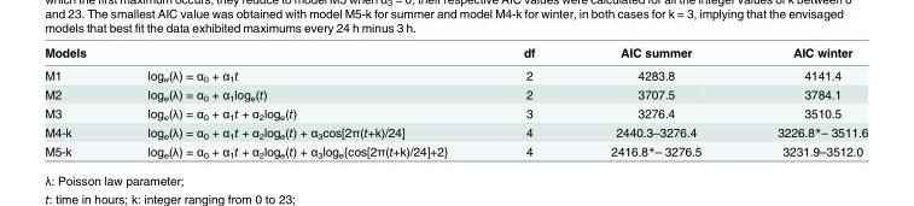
<table><thead><tr><td colspan="2">Models</td><td rowspan="2">df 2</td><td rowspan="2">AIC summer 4283.8</td><td rowspan="2">AIC winter 4141.4</td></tr><tr><td>M1</td><td>log<sub>e</sub>(λ) = α<sub>0</sub> + α<sub>1</sub>t</td></tr></thead><tbody><tr><td>M2</td><td>log<sub>e</sub>(λ) = α<sub>0</sub> + α<sub>1</sub>log<sub>e</sub>(t)</td><td>2</td><td>3707.5</td><td>3784.1</td></tr><tr><td>M3</td><td>log<sub>e</sub>(λ) = α<sub>0</sub> + α<sub>1</sub>t + α<sub>2</sub>log<sub>e</sub>(t)</td><td>3</td><td>3276.4</td><td>3510.5</td></tr><tr><td>M4-k</td><td>log<sub>e</sub>(λ) = α<sub>0</sub> + α<sub>1</sub>t + α<sub>2</sub>log<sub>e</sub>(t) + α<sub>3</sub>cos[2π(t+k)/24]</td><td>4</td><td>2440.3–3276.4</td><td>3226.8*– 3511.6</td></tr><tr><td>M5-k</td><td>log<sub>e</sub>(λ) = α<sub>0</sub> + α<sub>1</sub>t + α<sub>2</sub>log<sub>e</sub>(t) + α<sub>3</sub>log<sub>e</sub>{cos[2π(t+k)/24]+2}</td><td>4</td><td>2416.8*– 3276.5</td><td>3231.9–3512.0</td></tr></tbody></table>